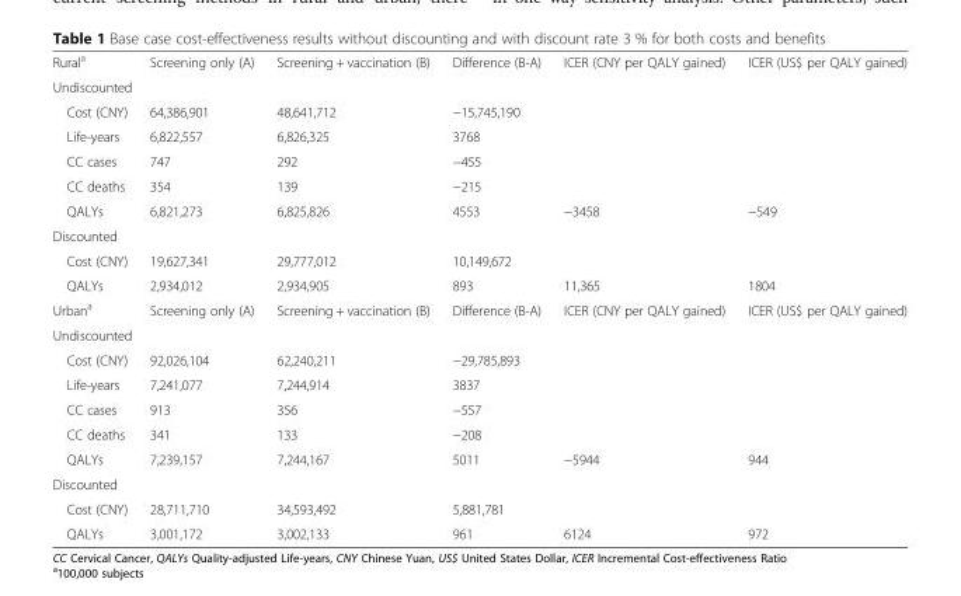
<table><tbody><tr><td>Rural<sup>a</sup></td><td>Screening only (A)</td><td>Screening + vaccination (B)</td><td>Difference (B-A)</td><td>ICER (CNY per QALY gained)</td><td>ICER (US$ per QALY gained)</td></tr><tr><td colspan="6">Undiscounted</td></tr><tr><td>Cost (CNY)</td><td>64,386,901</td><td>48,641,712</td><td>−15,745,190</td><td></td><td></td></tr><tr><td>Life-years</td><td>6,822,557</td><td>6,826,325</td><td>3768</td><td></td><td></td></tr><tr><td>CC cases</td><td>747</td><td>292</td><td>−455</td><td></td><td></td></tr><tr><td>CC deaths</td><td>354</td><td>139</td><td>−215</td><td></td><td></td></tr><tr><td>QALYs</td><td>6,821,273</td><td>6,825,826</td><td>4553</td><td>−3458</td><td>−549</td></tr><tr><td colspan="6">Discounted</td></tr><tr><td>Cost (CNY)</td><td>19,627,341</td><td>29,777,012</td><td>10,149,672</td><td></td><td></td></tr><tr><td>QALYs</td><td>2,934,012</td><td>2,934,905</td><td>893</td><td>11,365</td><td>1804</td></tr><tr><td>Urban<sup>a</sup></td><td>Screening only (A)</td><td>Screening + vaccination (B)</td><td>Difference (B-A)</td><td>ICER (CNY per QALY gained)</td><td>ICER (US$ per QALY gained)</td></tr><tr><td colspan="6">Undiscounted</td></tr><tr><td>Cost (CNY)</td><td>92,026,104</td><td>62,240,211</td><td>−29,785,893</td><td></td><td></td></tr><tr><td>Life-years</td><td>7,241,077</td><td>7,244,914</td><td>3837</td><td></td><td></td></tr><tr><td>CC cases</td><td>913</td><td>356</td><td>−557</td><td></td><td></td></tr><tr><td>CC deaths</td><td>341</td><td>133</td><td>−208</td><td></td><td></td></tr><tr><td>QALYs</td><td>7,239,157</td><td>7,244,167</td><td>5011</td><td>−5944</td><td>944</td></tr><tr><td colspan="6">Discounted</td></tr><tr><td>Cost (CNY)</td><td>28,711,710</td><td>34,593,492</td><td>5,881,781</td><td></td><td></td></tr><tr><td>QALYs</td><td>3,001,172</td><td>3,002,133</td><td>961</td><td>6124</td><td>972</td></tr></tbody></table>